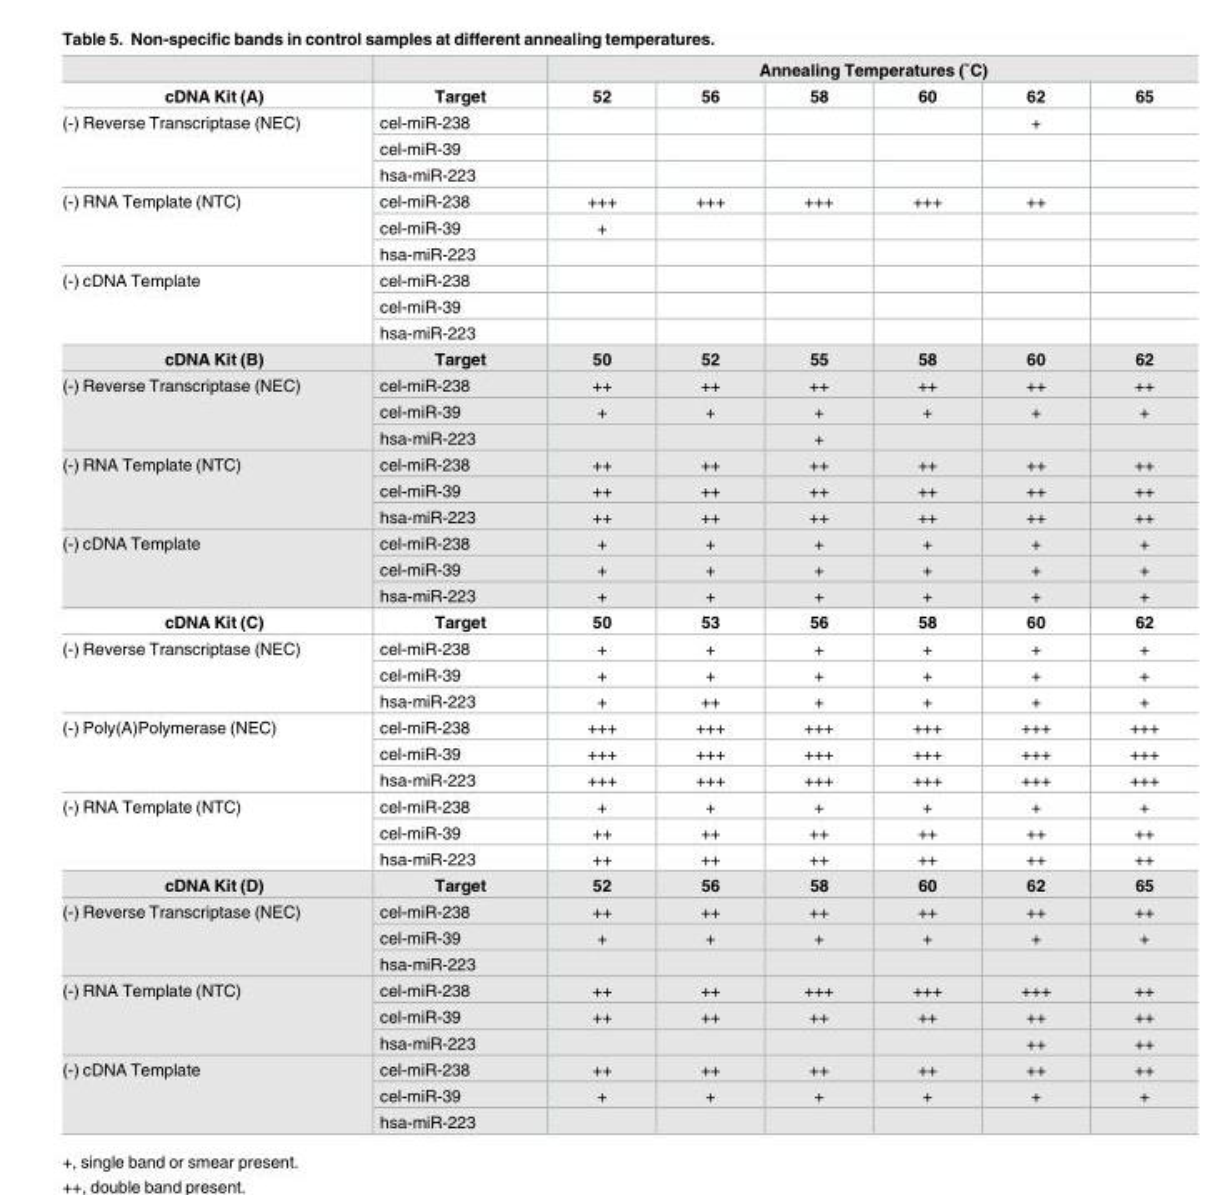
<table><thead><tr><td rowspan="2">cDNA Kit (A)</td><td rowspan="2">Target</td><td colspan="6">Annealing Temperatures (˚C)</td></tr><tr><td>52</td><td>56</td><td>58</td><td>60</td><td>62</td><td>65</td></tr></thead><tbody><tr><td rowspan="3">(-) Reverse Transcriptase (NEC)</td><td>cel-miR-238</td><td></td><td></td><td></td><td></td><td>+</td><td></td></tr><tr><td>cel-miR-39</td><td></td><td></td><td></td><td></td><td></td><td></td></tr><tr><td>hsa-miR-223</td><td></td><td></td><td></td><td></td><td></td><td></td></tr><tr><td rowspan="3">(-) RNA Template (NTC)</td><td>cel-miR-238</td><td>+++</td><td>+++</td><td>+++</td><td>+++</td><td>++</td><td></td></tr><tr><td>cel-miR-39</td><td>+</td><td></td><td></td><td></td><td></td><td></td></tr><tr><td>hsa-miR-223</td><td></td><td></td><td></td><td></td><td></td><td></td></tr><tr><td rowspan="3">(-) cDNA Template</td><td>cel-miR-238</td><td></td><td></td><td></td><td></td><td></td><td></td></tr><tr><td>cel-miR-39</td><td></td><td></td><td></td><td></td><td></td><td></td></tr><tr><td>hsa-miR-223</td><td></td><td></td><td></td><td></td><td></td><td></td></tr><tr><td>cDNA Kit (B)</td><td>Target</td><td>50</td><td>52</td><td>55</td><td>58</td><td>60</td><td>62</td></tr><tr><td rowspan="3">(-) Reverse Transcriptase (NEC)</td><td>cel-miR-238</td><td>++</td><td>++</td><td>++</td><td>++</td><td>++</td><td>++</td></tr><tr><td>cel-miR-39</td><td>+</td><td>+</td><td>+</td><td>+</td><td>+</td><td>+</td></tr><tr><td>hsa-miR-223</td><td></td><td></td><td>+</td><td></td><td></td><td></td></tr><tr><td rowspan="3">(-) RNA Template (NTC)</td><td>cel-miR-238</td><td>++</td><td>++</td><td>++</td><td>++</td><td>++</td><td>++</td></tr><tr><td>cel-miR-39</td><td>++</td><td>++</td><td>++</td><td>++</td><td>++</td><td>++</td></tr><tr><td>hsa-miR-223</td><td>++</td><td>++</td><td>++</td><td>++</td><td>++</td><td>++</td></tr><tr><td rowspan="3">(-) cDNA Template</td><td>cel-miR-238</td><td>+</td><td>+</td><td>+</td><td>+</td><td>+</td><td>+</td></tr><tr><td>cel-miR-39</td><td>+</td><td>+</td><td>+</td><td>+</td><td>+</td><td>+</td></tr><tr><td>hsa-miR-223</td><td>+</td><td>+</td><td>+</td><td>+</td><td>+</td><td>+</td></tr><tr><td>cDNA Kit (C)</td><td>Target</td><td>50</td><td>53</td><td>56</td><td>58</td><td>60</td><td>62</td></tr><tr><td rowspan="3">(-) Reverse Transcriptase (NEC)</td><td>cel-miR-238</td><td>+</td><td>+</td><td>+</td><td>+</td><td>+</td><td>+</td></tr><tr><td>cel-miR-39</td><td>+</td><td>+</td><td>+</td><td>+</td><td>+</td><td>+</td></tr><tr><td>hsa-miR-223</td><td>+</td><td>++</td><td>+</td><td>+</td><td>+</td><td>+</td></tr><tr><td rowspan="3">(-) Poly(A)Polymerase (NEC)</td><td>cel-miR-238</td><td>+++</td><td>+++</td><td>+++</td><td>+++</td><td>+++</td><td>+++</td></tr><tr><td>cel-miR-39</td><td>+++</td><td>+++</td><td>+++</td><td>+++</td><td>+++</td><td>+++</td></tr><tr><td>hsa-miR-223</td><td>+++</td><td>+++</td><td>+++</td><td>+++</td><td>+++</td><td>+++</td></tr><tr><td rowspan="3">(-) RNA Template (NTC)</td><td>cel-miR-238</td><td>+</td><td>+</td><td>+</td><td>+</td><td>+</td><td>+</td></tr><tr><td>cel-miR-39</td><td>++</td><td>++</td><td>++</td><td>++</td><td>++</td><td>++</td></tr><tr><td>hsa-miR-223</td><td>++</td><td>++</td><td>++</td><td>++</td><td>++</td><td>++</td></tr><tr><td>cDNA Kit (D)</td><td>Target</td><td>52</td><td>56</td><td>58</td><td>60</td><td>62</td><td>65</td></tr><tr><td rowspan="3">(-) Reverse Transcriptase (NEC)</td><td>cel-miR-238</td><td>++</td><td>++</td><td>++</td><td>++</td><td>++</td><td>++</td></tr><tr><td>cel-miR-39</td><td>+</td><td>+</td><td>+</td><td>+</td><td>+</td><td>+</td></tr><tr><td>hsa-miR-223</td><td></td><td></td><td></td><td></td><td></td><td></td></tr><tr><td rowspan="3">(-) RNA Template (NTC)</td><td>cel-miR-238</td><td>++</td><td>++</td><td>+++</td><td>+++</td><td>+++</td><td>++</td></tr><tr><td>cel-miR-39</td><td>++</td><td>++</td><td>++</td><td>++</td><td>++</td><td>++</td></tr><tr><td>hsa-miR-223</td><td></td><td></td><td></td><td></td><td>++</td><td>++</td></tr><tr><td rowspan="3">(-) cDNA Template</td><td>cel-miR-238</td><td>++</td><td>++</td><td>++</td><td>++</td><td>++</td><td>++</td></tr><tr><td>cel-miR-39</td><td>+</td><td>+</td><td>+</td><td>+</td><td>+</td><td>+</td></tr><tr><td>hsa-miR-223</td><td></td><td></td><td></td><td></td><td></td><td></td></tr></tbody></table>